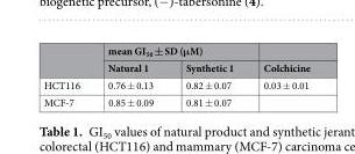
<table><thead><tr><td rowspan="2"></td><td colspan="2">mean GI<sub>50</sub> ± SD (μM)</td><td rowspan="2">Colchicine</td></tr><tr><td>Natural 1</td><td>Synthetic 1</td></tr></thead><tbody><tr><td>HCT116</td><td>0.76 ± 0.13</td><td>0.82 ± 0.07</td><td>0.03 ± 0.01</td></tr><tr><td>MCF-7</td><td>0.85 ± 0.09</td><td>0.81 ± 0.07</td><td></td></tr></tbody></table>